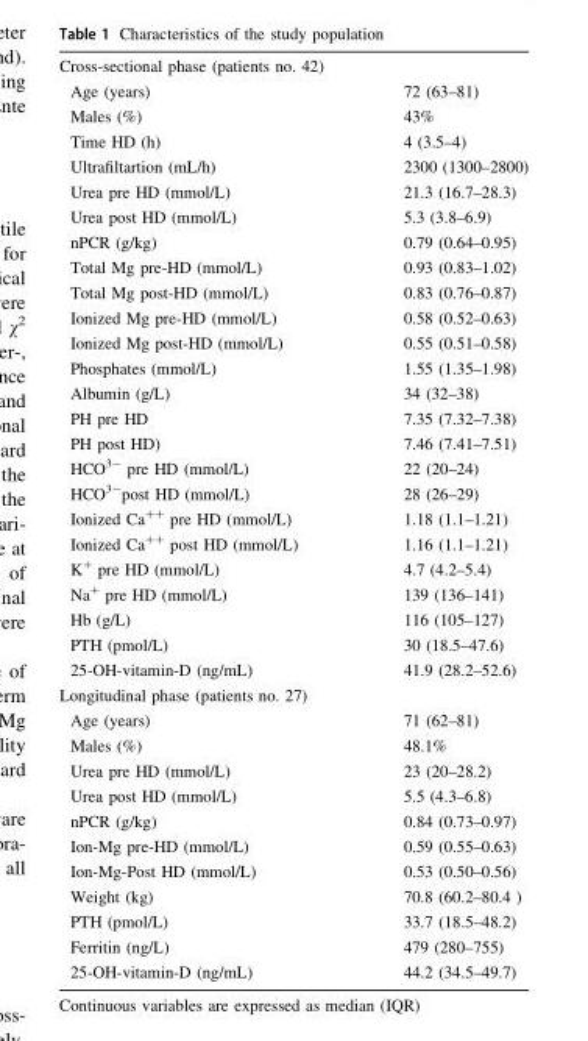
<table><tbody><tr><td colspan="2">Cross-sectional phase (patients no. 42)</td></tr><tr><td>Age (years)</td><td>72 (63–81)</td></tr><tr><td>Males (%)</td><td>43%</td></tr><tr><td>Time HD (h)</td><td>4 (3.5–4)</td></tr><tr><td>Ultrafiltartion (mL/h)</td><td>2300 (1300–2800)</td></tr><tr><td>Urea pre HD (mmol/L)</td><td>21.3 (16.7–28.3)</td></tr><tr><td>Urea post HD (mmol/L)</td><td>5.3 (3.8–6.9)</td></tr><tr><td>nPCR (g/kg)</td><td>0.79 (0.64–0.95)</td></tr><tr><td>Total Mg pre-HD (mmol/L)</td><td>0.93 (0.83–1.02)</td></tr><tr><td>Total Mg post-HD (mmol/L)</td><td>0.83 (0.76–0.87)</td></tr><tr><td>Ionized Mg pre-HD (mmol/L)</td><td>0.58 (0.52–0.63)</td></tr><tr><td>Ionized Mg post-HD (mmol/L)</td><td>0.55 (0.51–0.58)</td></tr><tr><td>Phosphates (mmol/L)</td><td>1.55 (1.35–1.98)</td></tr><tr><td>Albumin (g/L)</td><td>34 (32–38)</td></tr><tr><td>PH pre HD</td><td>7.35 (7.32–7.38)</td></tr><tr><td>PH post HD)</td><td>7.46 (7.41–7.51)</td></tr><tr><td>HCO<sup>3-</sup> pre HD (mmol/L)</td><td>22 (20–24)</td></tr><tr><td>HCO<sup>3-</sup>post HD (mmol/L)</td><td>28 (26–29)</td></tr><tr><td>Ionized Ca<sup>++</sup> pre HD (mmol/L)</td><td>1.18 (1.1–1.21)</td></tr><tr><td>Ionized Ca<sup>++</sup> post HD (mmol/L)</td><td>1.16 (1.1–1.21)</td></tr><tr><td>K<sup>+</sup> pre HD (mmol/L)</td><td>4.7 (4.2–5.4)</td></tr><tr><td>Na<sup>+</sup> pre HD (mmol/L)</td><td>139 (136–141)</td></tr><tr><td>Hb (g/L)</td><td>116 (105–127)</td></tr><tr><td>PTH (pmol/L)</td><td>30 (18.5–47.6)</td></tr><tr><td>25-OH-vitamin-D (ng/mL)</td><td>41.9 (28.2–52.6)</td></tr><tr><td colspan="2">Longitudinal phase (patients no. 27)</td></tr><tr><td>Age (years)</td><td>71 (62–81)</td></tr><tr><td>Males (%)</td><td>48.1%</td></tr><tr><td>Urea pre HD (mmol/L)</td><td>23 (20–28.2)</td></tr><tr><td>Urea post HD (mmol/L)</td><td>5.5 (4.3–6.8)</td></tr><tr><td>nPCR (g/kg)</td><td>0.84 (0.73–0.97)</td></tr><tr><td>Ion-Mg pre-HD (mmol/L)</td><td>0.59 (0.55–0.63)</td></tr><tr><td>Ion-Mg-Post HD (mmol/L)</td><td>0.53 (0.50–0.56)</td></tr><tr><td>Weight (kg)</td><td>70.8 (60.2–80.4 )</td></tr><tr><td>PTH (pmol/L)</td><td>33.7 (18.5–48.2)</td></tr><tr><td>Ferritin (ng/L)</td><td>479 (280–755)</td></tr><tr><td>25-OH-vitamin-D (ng/mL)</td><td>44.2 (34.5–49.7)</td></tr></tbody></table>